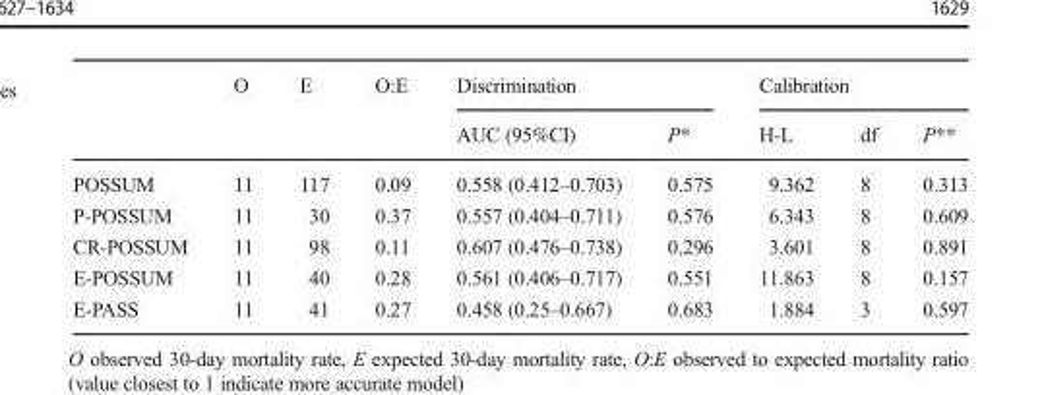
<table><thead><tr><td rowspan="2"></td><td rowspan="2">O</td><td rowspan="2">E</td><td rowspan="2">O:E</td><td colspan="2">Discrimination</td><td colspan="3">Calibration</td></tr><tr><td>AUC (95%CI)</td><td>P*</td><td>H-L</td><td>df</td><td>P**</td></tr></thead><tbody><tr><td>POSSUM</td><td>11</td><td>117</td><td>0.09</td><td>0.558 (0.412–0.703)</td><td>0.575</td><td>9.362</td><td>8</td><td>0.313</td></tr><tr><td>P-POSSUM</td><td>11</td><td>30</td><td>0.37</td><td>0.557 (0.404–0.711)</td><td>0.576</td><td>6.343</td><td>8</td><td>0.609</td></tr><tr><td>CR-POSSUM</td><td>11</td><td>98</td><td>0.11</td><td>0.607 (0.476–0.738)</td><td>0.296</td><td>3.601</td><td>8</td><td>0.891</td></tr><tr><td>E-POSSUM</td><td>11</td><td>40</td><td>0.28</td><td>0.561 (0.406–0.717)</td><td>0.551</td><td>11.863</td><td>8</td><td>0.157</td></tr><tr><td>E-PASS</td><td>11</td><td>41</td><td>0.27</td><td>0.458 (0.25–0.667)</td><td>0.683</td><td>1.884</td><td>3</td><td>0.597</td></tr></tbody></table>